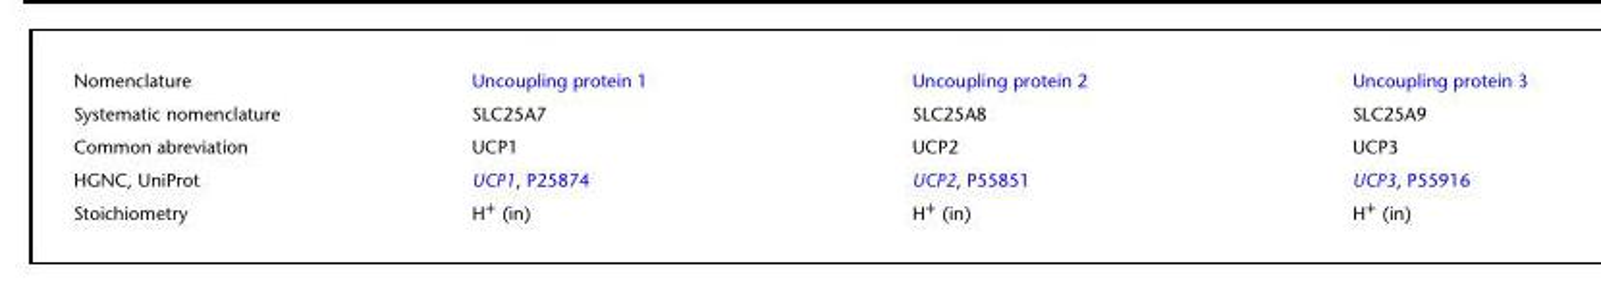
<table><tbody><tr><td>Nomenclature</td><td>Uncoupling protein 1</td><td>Uncoupling protein 2</td><td>Uncoupling protein 3</td></tr><tr><td>Systematic nomenclature</td><td>SLC25A7</td><td>SLC25A8</td><td>SLC25A9</td></tr><tr><td>Common abreviation</td><td>UCP1</td><td>UCP2</td><td>UCP3</td></tr><tr><td>HGNC, UniProt</td><td>UCP1, P25874</td><td>UCP2, P55851</td><td>UCP3, P55916</td></tr><tr><td>Stoichiometry</td><td>H<sup>+</sup> (in)</td><td>H<sup>+</sup> (in)</td><td>H<sup>+</sup> (in)</td></tr></tbody></table>